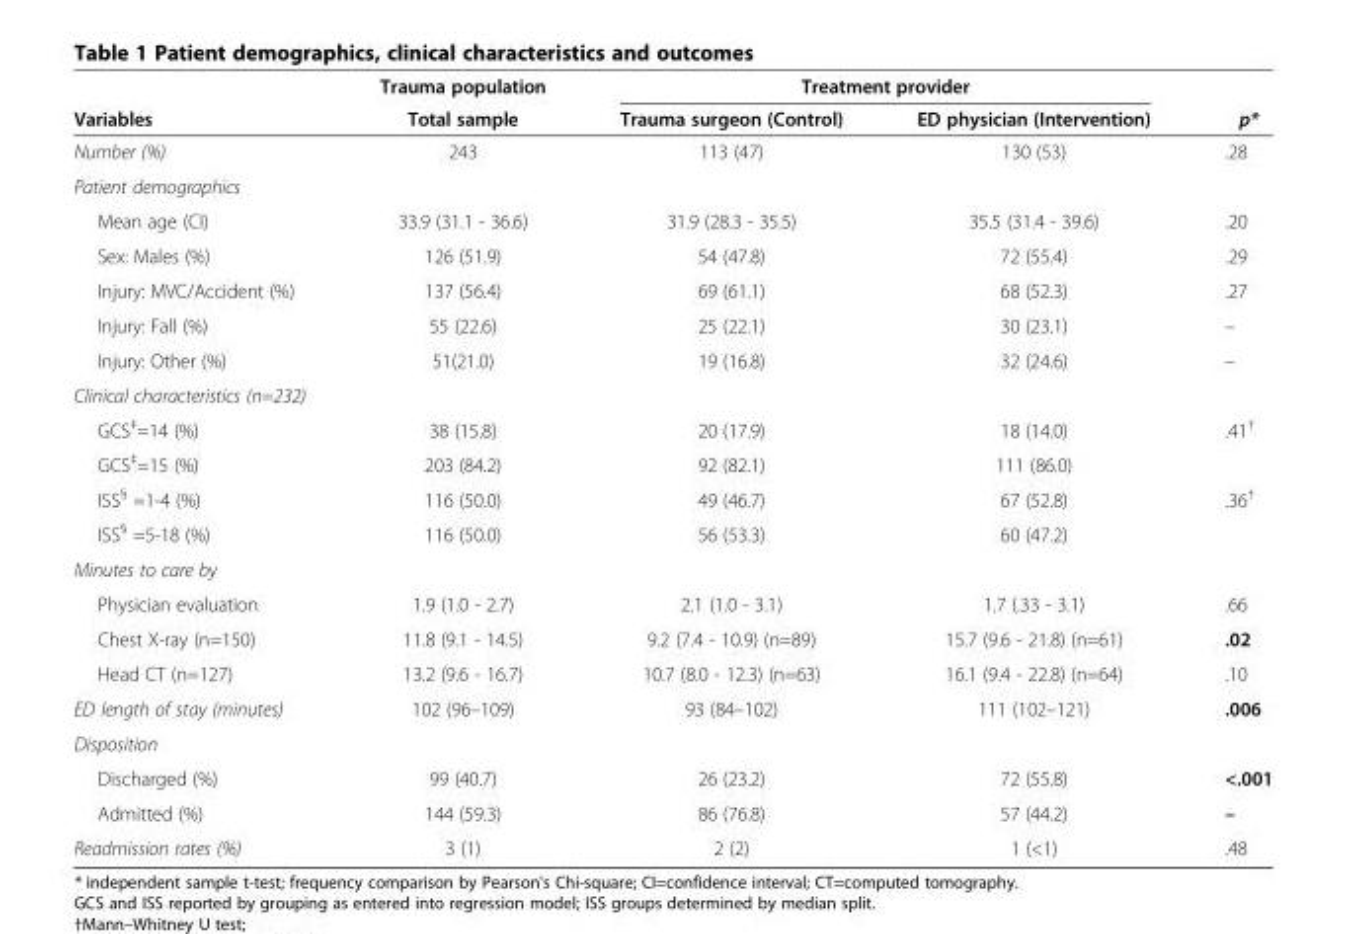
<table><thead><tr><td rowspan="2">Variables</td><td rowspan="2">Trauma population Total sample</td><td colspan="2">Treatment provider</td><td rowspan="2">p*</td></tr><tr><td>Trauma surgeon (Control)</td><td>ED physician (Intervention)</td></tr></thead><tbody><tr><td>Number (%)</td><td>243</td><td>113 (47)</td><td>130 (53)</td><td>.28</td></tr><tr><td colspan="5">Patient demographics</td></tr><tr><td>Mean age (CI)</td><td>33.9 (31.1 - 36.6)</td><td>31.9 (28.3 - 35.5)</td><td>35.5 (31.4 - 39.6)</td><td>.20</td></tr><tr><td>Sex: Males (%)</td><td>126 (51.9)</td><td>54 (47.8)</td><td>72 (55.4)</td><td>.29</td></tr><tr><td>Injury: MVC/Accident (%)</td><td>137 (56.4)</td><td>69 (61.1)</td><td>68 (52.3)</td><td>.27</td></tr><tr><td>Injury: Fall (%)</td><td>55 (22.6)</td><td>25 (22.1)</td><td>30 (23.1)</td><td>–</td></tr><tr><td>Injury: Other (%)</td><td>51(21.0)</td><td>19 (16.8)</td><td>32 (24.6)</td><td>–</td></tr><tr><td colspan="5">Clinical characteristics (n=232)</td></tr><tr><td>GCS‡=14 (%)</td><td>38 (15.8)</td><td>20 (17.9)</td><td>18 (14.0)</td><td>.41<sup>†</sup></td></tr><tr><td>GCS‡=15 (%)</td><td>203 (84.2)</td><td>92 (82.1)</td><td>111 (86.0)</td><td></td></tr><tr><td>ISS§ =1-4 (%)</td><td>116 (50.0)</td><td>49 (46.7)</td><td>67 (52.8)</td><td>.36<sup>†</sup></td></tr><tr><td>ISS§ =5-18 (%)</td><td>116 (50.0)</td><td>56 (53.3)</td><td>60 (47.2)</td><td></td></tr><tr><td colspan="5">Minutes to care by</td></tr><tr><td>Physician evaluation</td><td>1.9 (1.0 - 2.7)</td><td>2.1 (1.0 - 3.1)</td><td>1.7 (.33 - 3.1)</td><td>.66</td></tr><tr><td>Chest X-ray (n=150)</td><td>11.8 (9.1 - 14.5)</td><td>9.2 (7.4 - 10.9) (n=89)</td><td>15.7 (9.6 - 21.8) (n=61)</td><td>.02</td></tr><tr><td>Head CT (n=127)</td><td>13.2 (9.6 - 16.7)</td><td>10.7 (8.0 - 12.3) (n=63)</td><td>16.1 (9.4 - 22.8) (n=64)</td><td>.10</td></tr><tr><td>ED length of stay (minutes)</td><td>102 (96–109)</td><td>93 (84–102)</td><td>111 (102–121)</td><td>.006</td></tr><tr><td colspan="5">Disposition</td></tr><tr><td>Discharged (%)</td><td>99 (40.7)</td><td>26 (23.2)</td><td>72 (55.8)</td><td>&lt;.001</td></tr><tr><td>Admitted (%)</td><td>144 (59.3)</td><td>86 (76.8)</td><td>57 (44.2)</td><td>–</td></tr><tr><td>Readmission rates (%)</td><td>3 (1)</td><td>2 (2)</td><td>1 (&lt;1)</td><td>.48</td></tr></tbody></table>